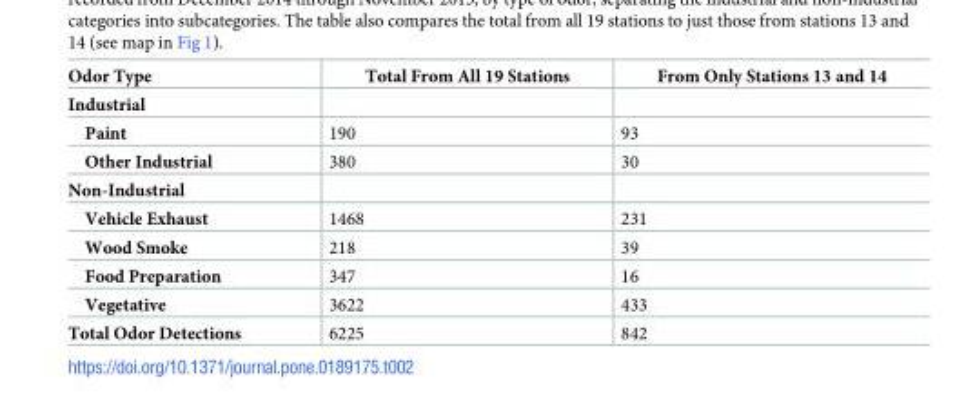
<table><thead><tr><td>Odor Type</td><td>Total From All 19 Stations</td><td>From Only Stations 13 and 14</td></tr></thead><tbody><tr><td colspan="3">Industrial</td></tr><tr><td>Paint</td><td>190</td><td>93</td></tr><tr><td>Other Industrial</td><td>380</td><td>30</td></tr><tr><td colspan="3">Non-Industrial</td></tr><tr><td>Vehicle Exhaust</td><td>1468</td><td>231</td></tr><tr><td>Wood Smoke</td><td>218</td><td>39</td></tr><tr><td>Food Preparation</td><td>347</td><td>16</td></tr><tr><td>Vegetative</td><td>3622</td><td>433</td></tr><tr><td>Total Odor Detections</td><td>6225</td><td>842</td></tr></tbody></table>